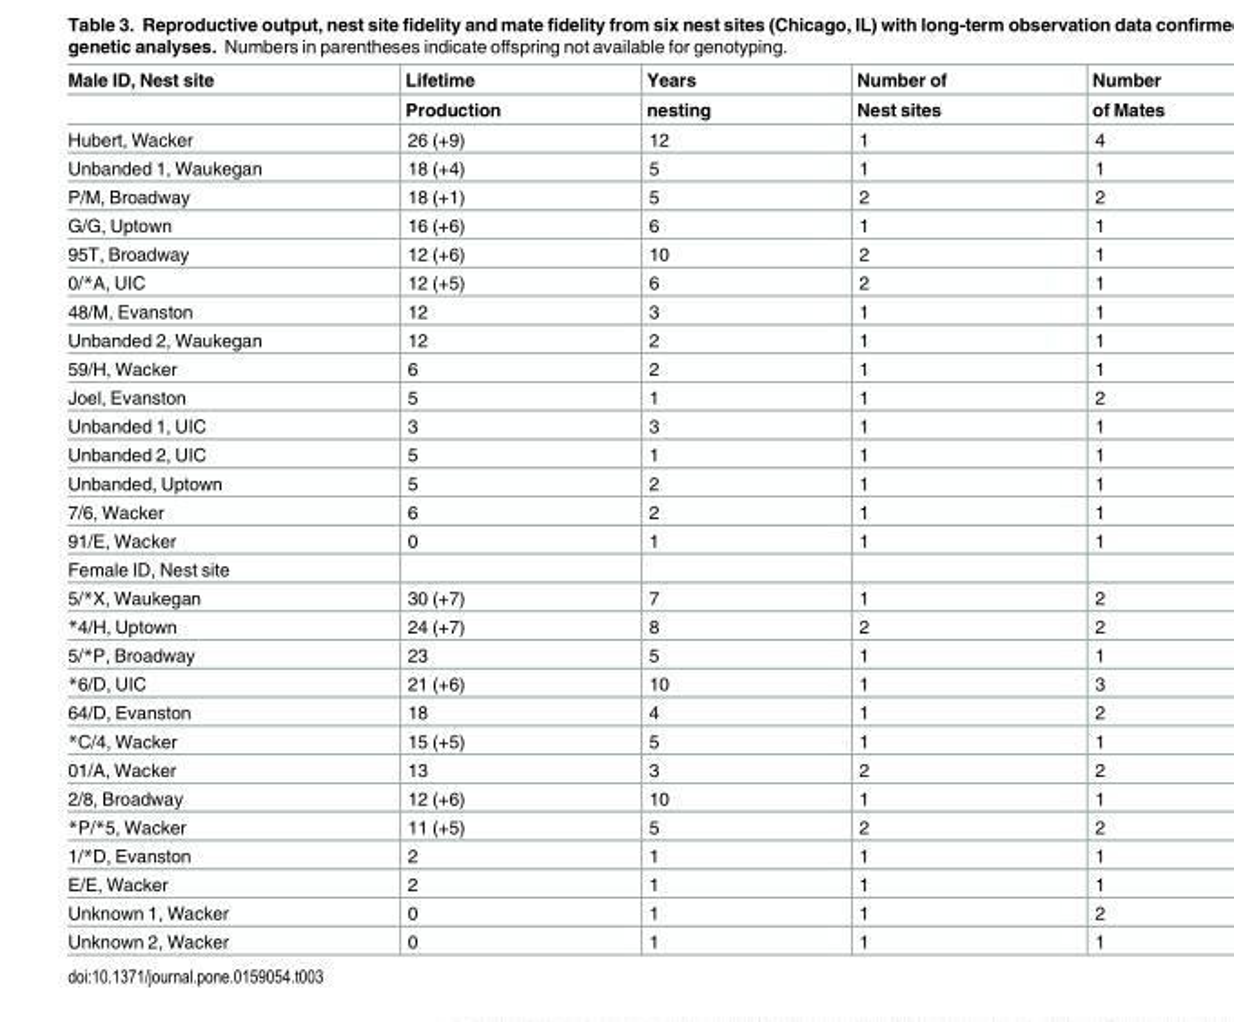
<table><thead><tr><td rowspan="2">Male ID, Nest site</td><td rowspan="2">Lifetime Production</td><td rowspan="2">Years nesting</td><td rowspan="2">Number of Nest sites</td><td rowspan="2">Number of Mates</td></tr><tr></tr></thead><tbody><tr><td>Hubert, Wacker</td><td>26 (+9)</td><td>12</td><td>1</td><td>4</td></tr><tr><td>Unbanded 1, Waukegan</td><td>18 (+4)</td><td>5</td><td>1</td><td>1</td></tr><tr><td>P/M, Broadway</td><td>18 (+1)</td><td>5</td><td>2</td><td>2</td></tr><tr><td>G/G, Uptown</td><td>16 (+6)</td><td>6</td><td>1</td><td>1</td></tr><tr><td>95T, Broadway</td><td>12 (+6)</td><td>10</td><td>2</td><td>1</td></tr><tr><td>0/*A, UIC</td><td>12 (+5)</td><td>6</td><td>2</td><td>1</td></tr><tr><td>48/M, Evanston</td><td>12</td><td>3</td><td>1</td><td>1</td></tr><tr><td>Unbanded 2, Waukegan</td><td>12</td><td>2</td><td>1</td><td>1</td></tr><tr><td>59/H, Wacker</td><td>6</td><td>2</td><td>1</td><td>1</td></tr><tr><td>Joel, Evanston</td><td>5</td><td>1</td><td>1</td><td>2</td></tr><tr><td>Unbanded 1, UIC</td><td>3</td><td>3</td><td>1</td><td>1</td></tr><tr><td>Unbanded 2, UIC</td><td>5</td><td>1</td><td>1</td><td>1</td></tr><tr><td>Unbanded, Uptown</td><td>5</td><td>2</td><td>1</td><td>1</td></tr><tr><td>7/6, Wacker</td><td>6</td><td>2</td><td>1</td><td>1</td></tr><tr><td>91/E, Wacker</td><td>0</td><td>1</td><td>1</td><td>1</td></tr><tr><td colspan="5">Female ID, Nest site</td></tr><tr><td>5/*X, Waukegan</td><td>30 (+7)</td><td>7</td><td>1</td><td>2</td></tr><tr><td>*4/H, Uptown</td><td>24 (+7)</td><td>8</td><td>2</td><td>2</td></tr><tr><td>5/*P, Broadway</td><td>23</td><td>5</td><td>1</td><td>1</td></tr><tr><td>*6/D, UIC</td><td>21 (+6)</td><td>10</td><td>1</td><td>3</td></tr><tr><td>64/D, Evanston</td><td>18</td><td>4</td><td>1</td><td>2</td></tr><tr><td>*C/4, Wacker</td><td>15 (+5)</td><td>5</td><td>1</td><td>1</td></tr><tr><td>01/A, Wacker</td><td>13</td><td>3</td><td>2</td><td>2</td></tr><tr><td>2/8, Broadway</td><td>12 (+6)</td><td>10</td><td>1</td><td>1</td></tr><tr><td>*P/*5, Wacker</td><td>11 (+5)</td><td>5</td><td>2</td><td>2</td></tr><tr><td>1/*D, Evanston</td><td>2</td><td>1</td><td>1</td><td>1</td></tr><tr><td>E/E, Wacker</td><td>2</td><td>1</td><td>1</td><td>1</td></tr><tr><td>Unknown 1, Wacker</td><td>0</td><td>1</td><td>1</td><td>2</td></tr><tr><td>Unknown 2, Wacker</td><td>0</td><td>1</td><td>1</td><td>1</td></tr></tbody></table>